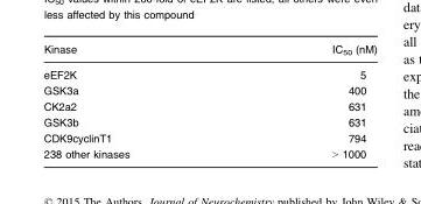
<table><thead><tr><td>Kinase</td><td>IC<sub>50</sub> (nM)</td></tr></thead><tbody><tr><td>eEF2K</td><td>5</td></tr><tr><td>GSK3a</td><td>400</td></tr><tr><td>CK2a2</td><td>631</td></tr><tr><td>GSK3b</td><td>631</td></tr><tr><td>CDK9cyclinT1</td><td>794</td></tr><tr><td>238 other kinases</td><td>&gt; 1000</td></tr></tbody></table>